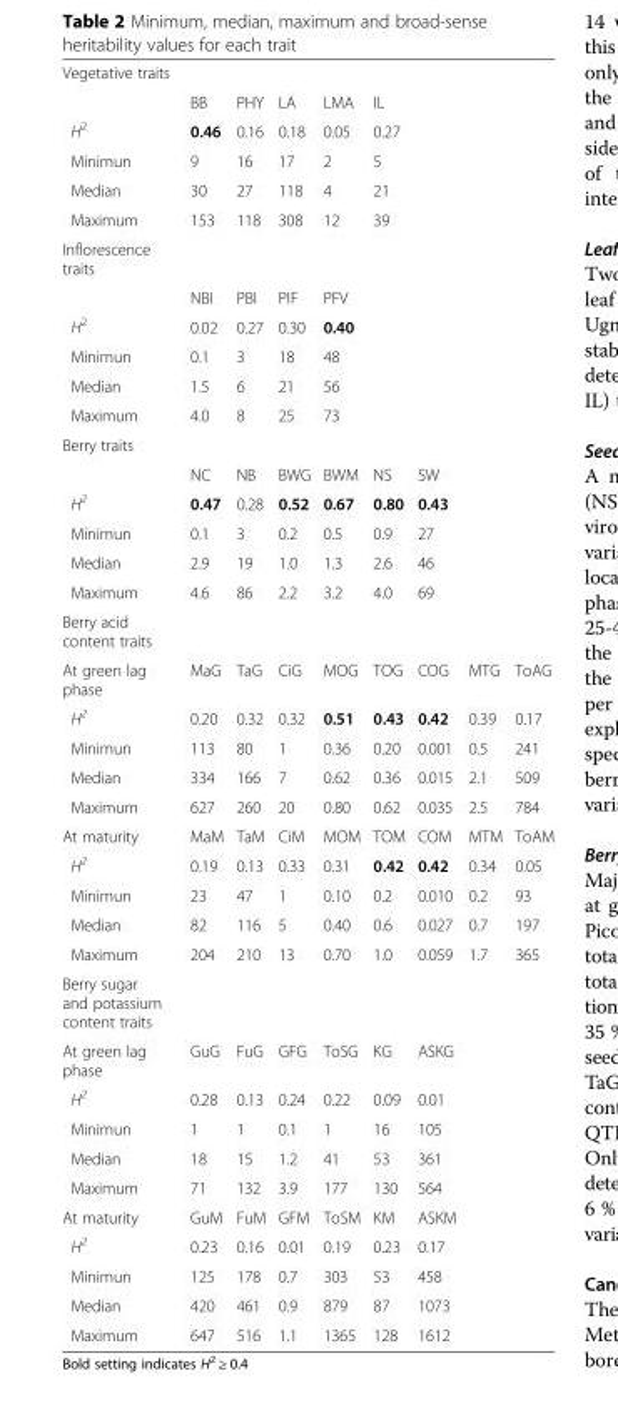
<table><tbody><tr><td colspan="9">Vegetative traits</td></tr><tr><td></td><td>BB</td><td>PHY</td><td>LA</td><td>LMA</td><td>IL</td><td></td><td></td><td></td></tr><tr><td>H<sup>2</sup></td><td>0.46</td><td>0.16</td><td>0.18</td><td>0.05</td><td>0.27</td><td></td><td></td><td></td></tr><tr><td>Minimun</td><td>9</td><td>16</td><td>17</td><td>2</td><td>5</td><td></td><td></td><td></td></tr><tr><td>Median</td><td>30</td><td>27</td><td>118</td><td>4</td><td>21</td><td></td><td></td><td></td></tr><tr><td>Maximum</td><td>153</td><td>118</td><td>308</td><td>12</td><td>39</td><td></td><td></td><td></td></tr><tr><td colspan="9">Inflorescence traits</td></tr><tr><td></td><td>NBI</td><td>PBI</td><td>PIF</td><td>PFV</td><td></td><td></td><td></td><td></td></tr><tr><td>H<sup>2</sup></td><td>0.02</td><td>0.27</td><td>0.30</td><td>0.40</td><td></td><td></td><td></td><td></td></tr><tr><td>Minimun</td><td>0.1</td><td>3</td><td>18</td><td>48</td><td></td><td></td><td></td><td></td></tr><tr><td>Median</td><td>1.5</td><td>6</td><td>21</td><td>56</td><td></td><td></td><td></td><td></td></tr><tr><td>Maximum</td><td>4.0</td><td>8</td><td>25</td><td>73</td><td></td><td></td><td></td><td></td></tr><tr><td colspan="9">Berry traits</td></tr><tr><td></td><td>NC</td><td>NB</td><td>BWG</td><td>BWM</td><td>NS</td><td>SW</td><td></td><td></td></tr><tr><td>H<sup>2</sup></td><td>0.47</td><td>0.28</td><td>0.52</td><td>0.67</td><td>0.80</td><td>0.43</td><td></td><td></td></tr><tr><td>Minimun</td><td>0.1</td><td>3</td><td>0.2</td><td>0.5</td><td>0.9</td><td>27</td><td></td><td></td></tr><tr><td>Median</td><td>2.9</td><td>19</td><td>1.0</td><td>1.3</td><td>2.6</td><td>46</td><td></td><td></td></tr><tr><td>Maximum</td><td>4.6</td><td>86</td><td>2.2</td><td>3.2</td><td>4.0</td><td>69</td><td></td><td></td></tr><tr><td colspan="9">Berry acid content traits</td></tr><tr><td>At green lag phase</td><td>MaG</td><td>TaG</td><td>CiG</td><td>MOG</td><td>TOG</td><td>COG</td><td>MTG</td><td>ToAG</td></tr><tr><td>H<sup>2</sup></td><td>0.20</td><td>0.32</td><td>0.32</td><td>0.51</td><td>0.43</td><td>0.42</td><td>0.39</td><td>0.17</td></tr><tr><td>Minimun</td><td>113</td><td>80</td><td>1</td><td>0.36</td><td>0.20</td><td>0.001</td><td>0.5</td><td>241</td></tr><tr><td>Median</td><td>334</td><td>166</td><td>7</td><td>0.62</td><td>0.36</td><td>0.015</td><td>2.1</td><td>509</td></tr><tr><td>Maximum</td><td>627</td><td>260</td><td>20</td><td>0.80</td><td>0.62</td><td>0.035</td><td>2.5</td><td>784</td></tr><tr><td>At maturity</td><td>MaM</td><td>TaM</td><td>CiM</td><td>MOM</td><td>TOM</td><td>COM</td><td>MTM</td><td>ToAM</td></tr><tr><td>H<sup>2</sup></td><td>0.19</td><td>0.13</td><td>0.33</td><td>0.31</td><td>0.42</td><td>0.42</td><td>0.34</td><td>0.05</td></tr><tr><td>Minimun</td><td>23</td><td>47</td><td>1</td><td>0.10</td><td>0.2</td><td>0.010</td><td>0.2</td><td>93</td></tr><tr><td>Median</td><td>82</td><td>116</td><td>5</td><td>0.40</td><td>0.6</td><td>0.027</td><td>0.7</td><td>197</td></tr><tr><td>Maximum</td><td>204</td><td>210</td><td>13</td><td>0.70</td><td>1.0</td><td>0.059</td><td>1.7</td><td>365</td></tr><tr><td colspan="9">Berry sugar and potassium content traits</td></tr><tr><td>At green lag phase</td><td>GuG</td><td>FuG</td><td>GFG</td><td>ToSG</td><td>KG</td><td>ASKG</td><td></td><td></td></tr><tr><td>H<sup>2</sup></td><td>0.28</td><td>0.13</td><td>0.24</td><td>0.22</td><td>0.09</td><td>0.01</td><td></td><td></td></tr><tr><td>Minimun</td><td>1</td><td>1</td><td>0.1</td><td>1</td><td>16</td><td>105</td><td></td><td></td></tr><tr><td>Median</td><td>18</td><td>15</td><td>1.2</td><td>41</td><td>53</td><td>361</td><td></td><td></td></tr><tr><td>Maximum</td><td>71</td><td>132</td><td>3.9</td><td>177</td><td>130</td><td>564</td><td></td><td></td></tr><tr><td>At maturity</td><td>GuM</td><td>FuM</td><td>GFM</td><td>ToSM</td><td>KM</td><td>ASKM</td><td></td><td></td></tr><tr><td>H<sup>2</sup></td><td>0.23</td><td>0.16</td><td>0.01</td><td>0.19</td><td>0.23</td><td>0.17</td><td></td><td></td></tr><tr><td>Minimun</td><td>125</td><td>178</td><td>0.7</td><td>303</td><td>53</td><td>458</td><td></td><td></td></tr><tr><td>Median</td><td>420</td><td>461</td><td>0.9</td><td>879</td><td>87</td><td>1073</td><td></td><td></td></tr><tr><td>Maximum</td><td>647</td><td>516</td><td>1.1</td><td>1365</td><td>128</td><td>1612</td><td></td><td></td></tr></tbody></table>